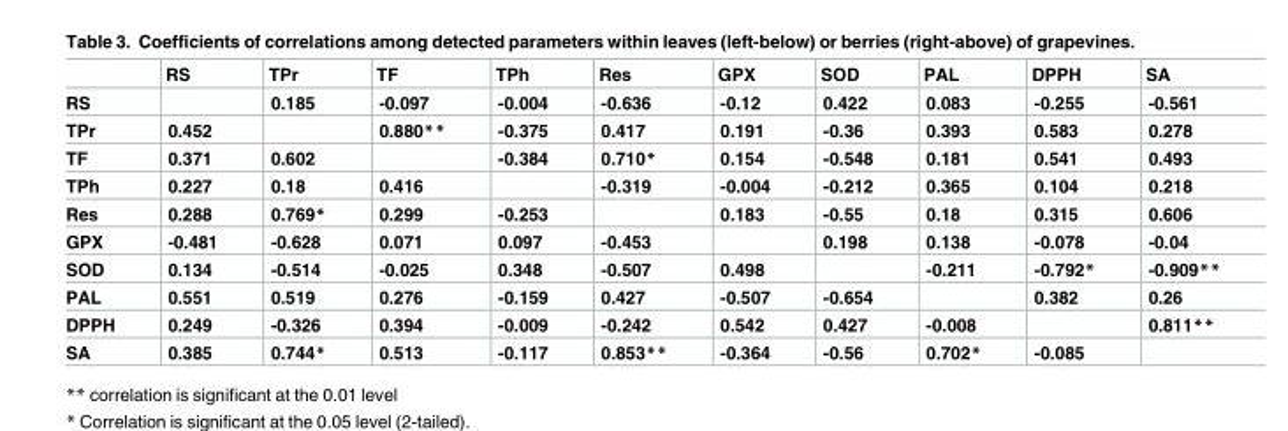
<table><thead><tr><td></td><td>RS</td><td>TPr</td><td>TF</td><td>TPh</td><td>Res</td><td>GPX</td><td>SOD</td><td>PAL</td><td>DPPH</td><td>SA</td></tr></thead><tbody><tr><td>RS</td><td></td><td>0.185</td><td>-0.097</td><td>-0.004</td><td>-0.636</td><td>-0.12</td><td>0.422</td><td>0.083</td><td>-0.255</td><td>-0.561</td></tr><tr><td>TPr</td><td>0.452</td><td></td><td>0.880**</td><td>-0.375</td><td>0.417</td><td>0.191</td><td>-0.36</td><td>0.393</td><td>0.583</td><td>0.278</td></tr><tr><td>TF</td><td>0.371</td><td>0.602</td><td></td><td>-0.384</td><td>0.710*</td><td>0.154</td><td>-0.548</td><td>0.181</td><td>0.541</td><td>0.493</td></tr><tr><td>TPh</td><td>0.227</td><td>0.18</td><td>0.416</td><td></td><td>-0.319</td><td>-0.004</td><td>-0.212</td><td>0.365</td><td>0.104</td><td>0.218</td></tr><tr><td>Res</td><td>0.288</td><td>0.769*</td><td>0.299</td><td>-0.253</td><td></td><td>0.183</td><td>-0.55</td><td>0.18</td><td>0.315</td><td>0.606</td></tr><tr><td>GPX</td><td>-0.481</td><td>-0.628</td><td>0.071</td><td>0.097</td><td>-0.453</td><td></td><td>0.198</td><td>0.138</td><td>-0.078</td><td>-0.04</td></tr><tr><td>SOD</td><td>0.134</td><td>-0.514</td><td>-0.025</td><td>0.348</td><td>-0.507</td><td>0.498</td><td></td><td>-0.211</td><td>-0.792*</td><td>-0.909**</td></tr><tr><td>PAL</td><td>0.551</td><td>0.519</td><td>0.276</td><td>-0.159</td><td>0.427</td><td>-0.507</td><td>-0.654</td><td></td><td>0.382</td><td>0.26</td></tr><tr><td>DPPH</td><td>0.249</td><td>-0.326</td><td>0.394</td><td>-0.009</td><td>-0.242</td><td>0.542</td><td>0.427</td><td>-0.008</td><td></td><td>0.811**</td></tr><tr><td>SA</td><td>0.385</td><td>0.744*</td><td>0.513</td><td>-0.117</td><td>0.853**</td><td>-0.364</td><td>-0.56</td><td>0.702*</td><td>-0.085</td><td></td></tr></tbody></table>